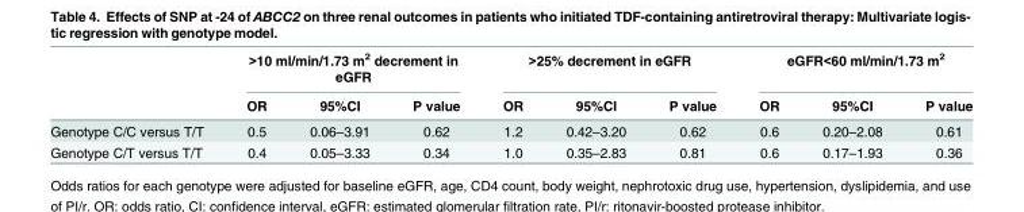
<table><thead><tr><td rowspan="2"></td><td colspan="3">&gt;10 ml/min/1.73 m<sup>2</sup> decrement in eGFR</td><td colspan="3">&gt;25% decrement in eGFR</td><td colspan="3">eGFR&lt;60 ml/min/1.73 m<sup>2</sup></td></tr><tr><td>OR</td><td>95%CI</td><td>P value</td><td>OR</td><td>95%CI</td><td>P value</td><td>OR</td><td>95%CI</td><td>P value</td></tr></thead><tbody><tr><td>Genotype C/C versus T/T</td><td>0.5</td><td>0.06–3.91</td><td>0.62</td><td>1.2</td><td>0.42–3.20</td><td>0.62</td><td>0.6</td><td>0.20–2.08</td><td>0.61</td></tr><tr><td>Genotype C/T versus T/T</td><td>0.4</td><td>0.05–3.33</td><td>0.34</td><td>1.0</td><td>0.35–2.83</td><td>0.81</td><td>0.6</td><td>0.17–1.93</td><td>0.36</td></tr></tbody></table>